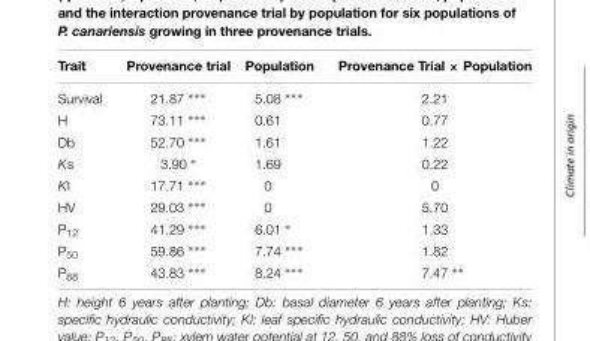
<table><thead><tr><td>Trait</td><td>Provenance trial</td><td>Population</td><td>Provenance Trial × Population</td></tr></thead><tbody><tr><td>Survival</td><td>21.87 ∗∗∗</td><td>5.08 ∗∗∗</td><td>2.21</td></tr><tr><td>H</td><td>73.11 ∗∗∗</td><td>0.61</td><td>0.77</td></tr><tr><td>Db</td><td>52.70 ∗∗∗</td><td>1.61</td><td>1.22</td></tr><tr><td>Ks</td><td>3.90 ∗</td><td>1.69</td><td>0.22</td></tr><tr><td>Kl</td><td>17.71 ∗∗∗</td><td>0</td><td>0</td></tr><tr><td>HV</td><td>29.03 ∗∗∗</td><td>0</td><td>5.70</td></tr><tr><td>P<sub>12</sub></td><td>41.29 ∗∗∗</td><td>6.01 ∗</td><td>1.33</td></tr><tr><td>P<sub>50</sub></td><td>59.86 ∗∗∗</td><td>7.74 ∗∗∗</td><td>1.82</td></tr><tr><td>P<sub>88</sub></td><td>43.83 ∗∗∗</td><td>8.24 ∗∗∗</td><td>7.47 ∗∗</td></tr></tbody></table>